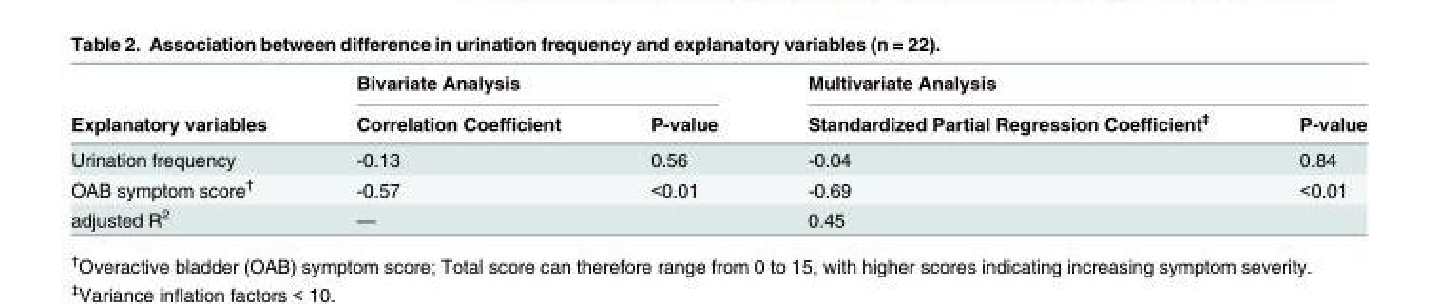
<table><thead><tr><td rowspan="2">Explanatory variables</td><td colspan="2">Bivariate Analysis</td><td colspan="2">Multivariate Analysis</td></tr><tr><td>Correlation Coefficient</td><td>P-value</td><td>Standardized Partial Regression Coefficient<sup>‡</sup></td><td>P-value</td></tr></thead><tbody><tr><td>Urination frequency</td><td>-0.13</td><td>0.56</td><td>-0.04</td><td>0.84</td></tr><tr><td>OAB symptom score<sup>†</sup></td><td>-0.57</td><td>&lt;0.01</td><td>-0.69</td><td>&lt;0.01</td></tr><tr><td>adjusted R<sup>2</sup></td><td>—</td><td></td><td>0.45</td><td></td></tr></tbody></table>